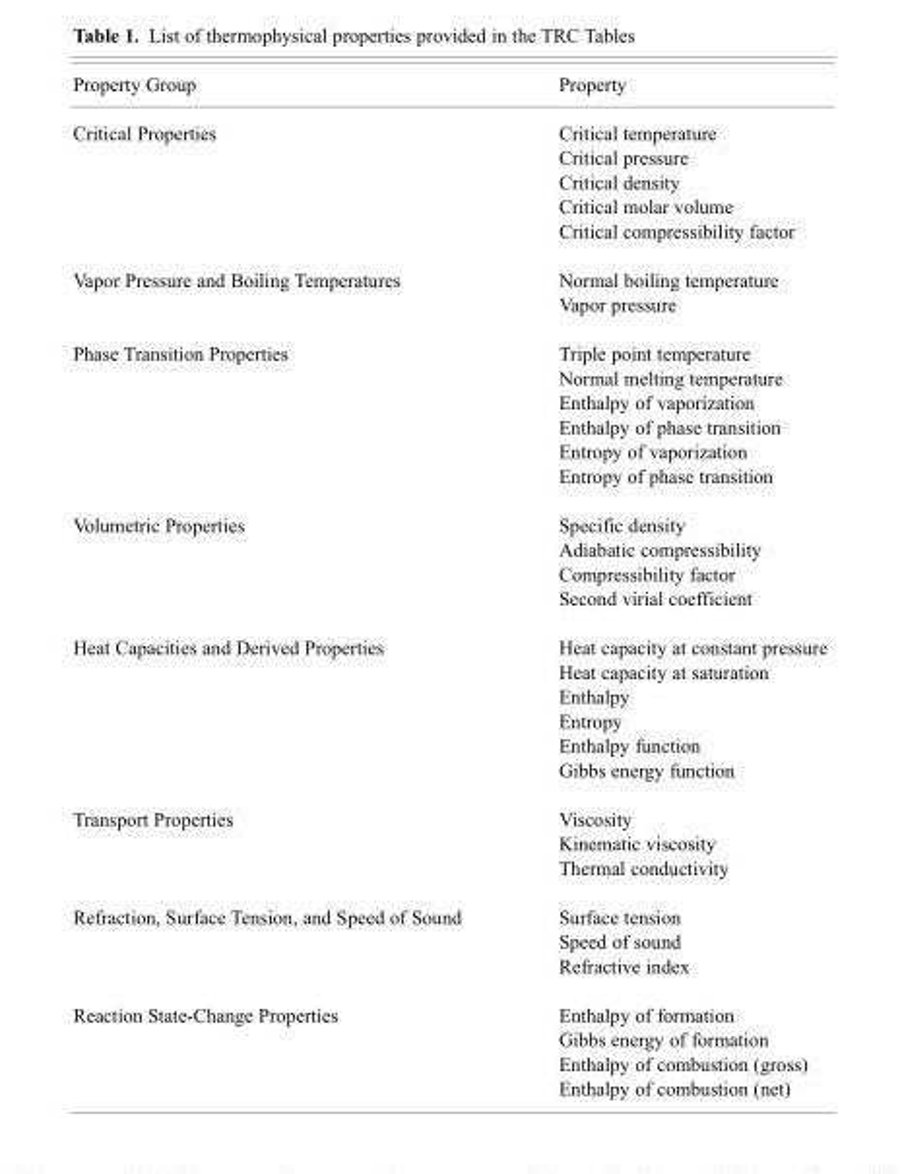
<table><thead><tr><td>Property Group</td><td>Property</td></tr></thead><tbody><tr><td rowspan="5">Critical Properties</td><td>Critical temperature</td></tr><tr><td>Critical pressure</td></tr><tr><td>Critical density</td></tr><tr><td>Critical molar volume</td></tr><tr><td>Critical compressibility factor</td></tr><tr><td>Vapor Pressure and Boiling Temperatures</td><td>Normal boiling temperature Vapor pressure</td></tr><tr><td rowspan="6">Phase Transition Properties</td><td>Triple point temperature</td></tr><tr><td>Normal melting temperature</td></tr><tr><td>Enthalpy of vaporization</td></tr><tr><td>Enthalpy of phase transition</td></tr><tr><td>Entropy of vaporization</td></tr><tr><td>Entropy of phase transition</td></tr><tr><td rowspan="4">Volumetric Properties</td><td>Specific density</td></tr><tr><td>Adiabatic compressibility</td></tr><tr><td>Compressibility factor</td></tr><tr><td>Second virial coefficient</td></tr><tr><td rowspan="6">Heat Capacities and Derived Properties</td><td>Heat capacity at constant pressure</td></tr><tr><td>Heat capacity at saturation</td></tr><tr><td>Enthalpy</td></tr><tr><td>Entropy</td></tr><tr><td>Enthalpy function</td></tr><tr><td>Gibbs energy function</td></tr><tr><td rowspan="3">Transport Properties</td><td>Viscosity</td></tr><tr><td>Kinematic viscosity</td></tr><tr><td>Thermal conductivity</td></tr><tr><td rowspan="3">Refraction, Surface Tension, and Speed of Sound</td><td>Surface tension</td></tr><tr><td>Speed of sound</td></tr><tr><td>Refractive index</td></tr><tr><td rowspan="4">Reaction State-Change Properties</td><td>Enthalpy of formation</td></tr><tr><td>Gibbs energy of formation</td></tr><tr><td>Enthalpy of combustion (gross)</td></tr><tr><td>Enthalpy of combustion (net)</td></tr></tbody></table>